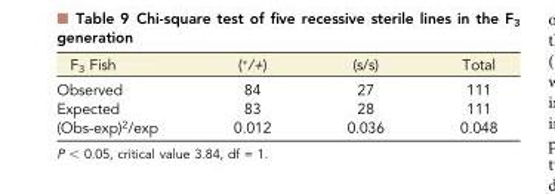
<table><thead><tr><td>F<sub>3</sub> Fish</td><td>(*/+)</td><td>(s/s)</td><td>Total</td></tr></thead><tbody><tr><td>Observed</td><td>84</td><td>27</td><td>111</td></tr><tr><td>Expected</td><td>83</td><td>28</td><td>111</td></tr><tr><td>(Obs-exp)<sup>2</sup>/exp</td><td>0.012</td><td>0.036</td><td>0.048</td></tr></tbody></table>